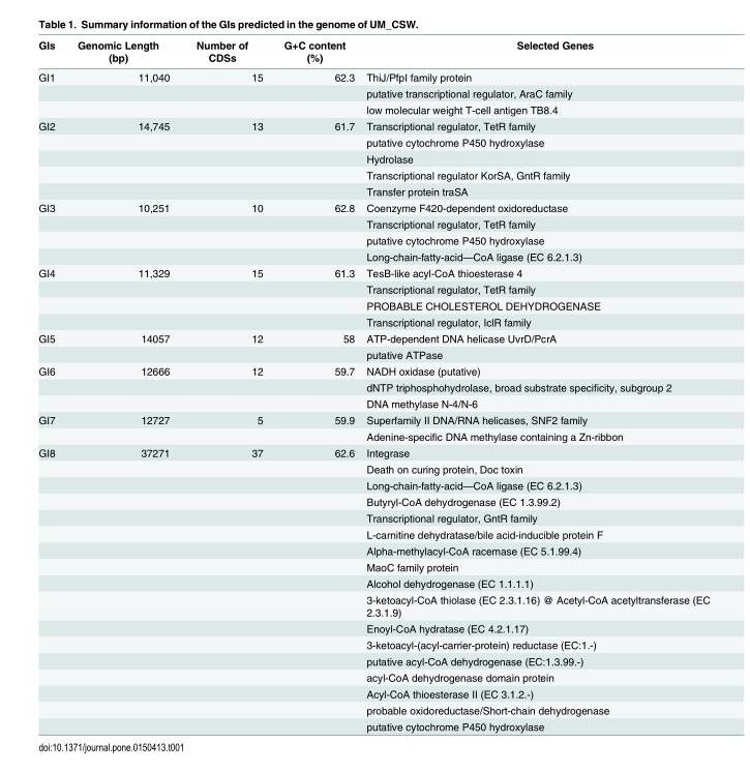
<table><thead><tr><td>GIs</td><td>Genomic Length (bp)</td><td>Number of CDSs</td><td>G+C content (%)</td><td>Selected Genes</td></tr></thead><tbody><tr><td rowspan="3">GI1</td><td>11,040</td><td>15</td><td>62.3</td><td>ThiJ/PfpI family protein</td></tr><tr><td></td><td></td><td></td><td>putative transcriptional regulator, AraC family</td></tr><tr><td></td><td></td><td></td><td>low molecular weight T-cell antigen TB8.4</td></tr><tr><td rowspan="5">GI2</td><td>14,745</td><td>13</td><td>61.7</td><td>Transcriptional regulator, TetR family</td></tr><tr><td></td><td></td><td></td><td>putative cytochrome P450 hydroxylase</td></tr><tr><td></td><td></td><td></td><td>Hydrolase</td></tr><tr><td></td><td></td><td></td><td>Transcriptional regulator KorSA, GntR family</td></tr><tr><td></td><td></td><td></td><td>Transfer protein traSA</td></tr><tr><td rowspan="4">GI3</td><td>10,251</td><td>10</td><td>62.8</td><td>Coenzyme F420-dependent oxidoreductase</td></tr><tr><td></td><td></td><td></td><td>Transcriptional regulator, TetR family</td></tr><tr><td></td><td></td><td></td><td>putative cytochrome P450 hydroxylase</td></tr><tr><td></td><td></td><td></td><td>Long-chain-fatty-acid—CoA ligase (EC 6.2.1.3)</td></tr><tr><td rowspan="4">GI4</td><td>11,329</td><td>15</td><td>61.3</td><td>TesB-like acyl-CoA thioesterase 4</td></tr><tr><td></td><td></td><td></td><td>Transcriptional regulator, TetR family</td></tr><tr><td></td><td></td><td></td><td>PROBABLE CHOLESTEROL DEHYDROGENASE</td></tr><tr><td></td><td></td><td></td><td>Transcriptional regulator, IclR family</td></tr><tr><td rowspan="2">GI5</td><td>14057</td><td>12</td><td>58</td><td>ATP-dependent DNA helicase UvrD/PcrA</td></tr><tr><td></td><td></td><td></td><td>putative ATPase</td></tr><tr><td rowspan="3">GI6</td><td>12666</td><td>12</td><td>59.7</td><td>NADH oxidase (putative)</td></tr><tr><td></td><td></td><td></td><td>dNTP triphosphohydrolase, broad substrate specificity, subgroup 2</td></tr><tr><td></td><td></td><td></td><td>DNA methylase N-4/N-6</td></tr><tr><td rowspan="2">GI7</td><td>12727</td><td>5</td><td>59.9</td><td>Superfamily II DNA/RNA helicases, SNF2 family</td></tr><tr><td></td><td></td><td></td><td>Adenine-specific DNA methylase containing a Zn-ribbon</td></tr><tr><td rowspan="17">GI8</td><td>37271</td><td>37</td><td>62.6</td><td>Integrase</td></tr><tr><td></td><td></td><td></td><td>Death on curing protein, Doc toxin</td></tr><tr><td></td><td></td><td></td><td>Long-chain-fatty-acid—CoA ligase (EC 6.2.1.3)</td></tr><tr><td></td><td></td><td></td><td>Butyryl-CoA dehydrogenase (EC 1.3.99.2)</td></tr><tr><td></td><td></td><td></td><td>Transcriptional regulator, GntR family</td></tr><tr><td></td><td></td><td></td><td>L-carnitine dehydratase/bile acid-inducible protein F</td></tr><tr><td></td><td></td><td></td><td>Alpha-methylacyl-CoA racemase (EC 5.1.99.4)</td></tr><tr><td></td><td></td><td></td><td>MaoC family protein</td></tr><tr><td></td><td></td><td></td><td>Alcohol dehydrogenase (EC 1.1.1.1)</td></tr><tr><td></td><td></td><td></td><td>3-ketoacyl-CoA thiolase (EC 2.3.1.16) @ Acetyl-CoA acetyltransferase (EC 2.3.1.9)</td></tr><tr><td></td><td></td><td></td><td>Enoyl-CoA hydratase (EC 4.2.1.17)</td></tr><tr><td></td><td></td><td></td><td>3-ketoacyl-(acyl-carrier-protein) reductase (EC:1.-)</td></tr><tr><td></td><td></td><td></td><td>putative acyl-CoA dehydrogenase (EC:1.3.99.-)</td></tr><tr><td></td><td></td><td></td><td>acyl-CoA dehydrogenase domain protein</td></tr><tr><td></td><td></td><td></td><td>Acyl-CoA thioesterase II (EC 3.1.2.-)</td></tr><tr><td></td><td></td><td></td><td>probable oxidoreductase/Short-chain dehydrogenase</td></tr><tr><td></td><td></td><td></td><td>putative cytochrome P450 hydroxylase</td></tr></tbody></table>